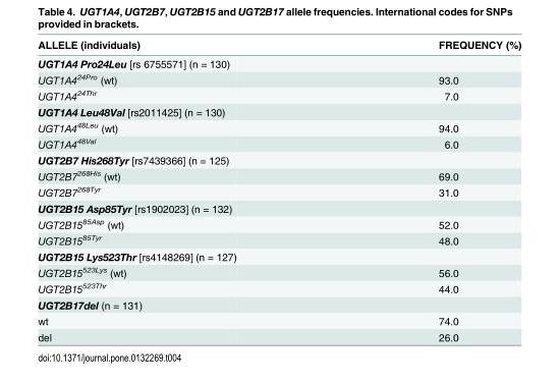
<table><thead><tr><td>ALLELE (individuals)</td><td>FREQUENCY (%)</td></tr></thead><tbody><tr><td colspan="2">UGT1A4 Pro24Leu [rs 6755571] (n = 130)</td></tr><tr><td>UGT1A4<sup>24Pro</sup> (wt)</td><td>93.0</td></tr><tr><td>UGT1A4<sup>24Thr</sup></td><td>7.0</td></tr><tr><td colspan="2">UGT1A4 Leu48Val [rs2011425] (n = 130)</td></tr><tr><td>UGT1A4<sup>48Leu</sup> (wt)</td><td>94.0</td></tr><tr><td>UGT1A4<sup>48Val</sup></td><td>6.0</td></tr><tr><td colspan="2">UGT2B7 His268Tyr [rs7439366] (n = 125)</td></tr><tr><td>UGT2B7<sup>268His</sup> (wt)</td><td>69.0</td></tr><tr><td>UGT2B7<sup>268Tyr</sup></td><td>31.0</td></tr><tr><td colspan="2">UGT2B15 Asp85Tyr [rs1902023] (n = 132)</td></tr><tr><td>UGT2B15<sup>85Asp</sup> (wt)</td><td>52.0</td></tr><tr><td>UGT2B15<sup>85Tyr</sup></td><td>48.0</td></tr><tr><td colspan="2">UGT2B15 Lys523Thr [rs4148269] (n = 127)</td></tr><tr><td>UGT2B15<sup>523Lys</sup> (wt)</td><td>56.0</td></tr><tr><td>UGT2B15<sup>523Thr</sup></td><td>44.0</td></tr><tr><td colspan="2">UGT2B17del (n = 131)</td></tr><tr><td>wt</td><td>74.0</td></tr><tr><td>del</td><td>26.0</td></tr></tbody></table>